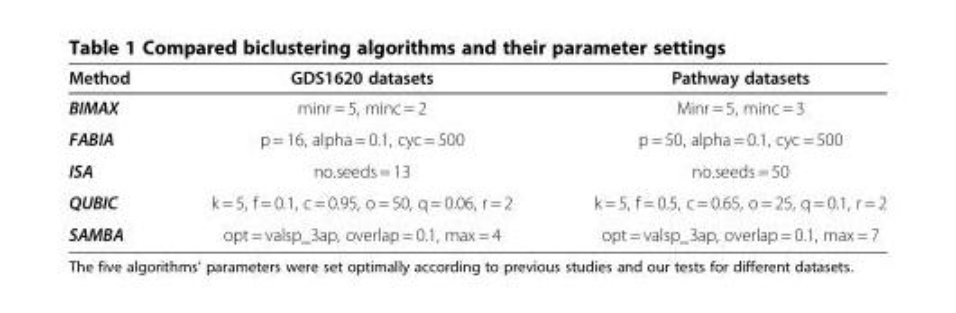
<table><thead><tr><td>Method</td><td>GDS1620 datasets</td><td>Pathway datasets</td></tr></thead><tbody><tr><td>BIMAX</td><td>minr = 5, minc = 2</td><td>Minr = 5, minc = 3</td></tr><tr><td>FABIA</td><td>p = 16, alpha = 0.1, cyc = 500</td><td>p = 50, alpha = 0.1, cyc = 500</td></tr><tr><td>ISA</td><td>no.seeds = 13</td><td>no.seeds = 50</td></tr><tr><td>QUBIC</td><td>k = 5, f = 0.1, c = 0.95, o = 50, q = 0.06, r = 2</td><td>k = 5, f = 0.5, c = 0.65, o = 25, q = 0.1, r = 2</td></tr><tr><td>SAMBA</td><td>opt = valsp_3ap, overlap = 0.1, max = 4</td><td>opt = valsp_3ap, overlap = 0.1, max = 7</td></tr></tbody></table>